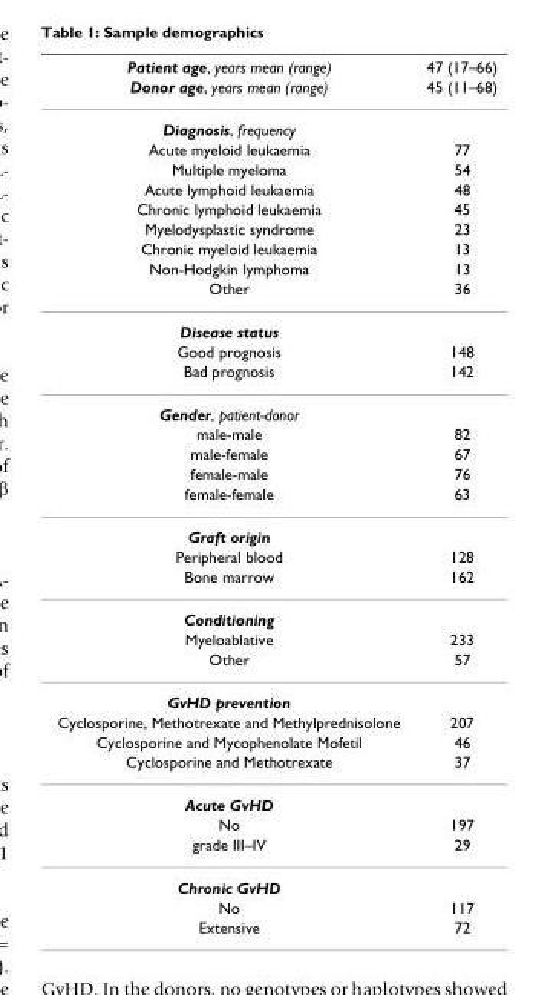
<table><thead><tr><td rowspan="2">Patient age, years mean (range) Donor age, years mean (range)</td><td rowspan="2">47 (17–66) 45 (11–68)</td></tr><tr></tr></thead><tbody><tr><td colspan="2">Diagnosis, frequency</td></tr><tr><td>Acute myeloid leukaemia</td><td>77</td></tr><tr><td>Multiple myeloma</td><td>54</td></tr><tr><td>Acute lymphoid leukaemia</td><td>48</td></tr><tr><td>Chronic lymphoid leukaemia</td><td>45</td></tr><tr><td>Myelodysplastic syndrome</td><td>23</td></tr><tr><td>Chronic myeloid leukaemia</td><td>13</td></tr><tr><td>Non-Hodgkin lymphoma</td><td>13</td></tr><tr><td>Other</td><td>36</td></tr><tr><td colspan="2">Disease status</td></tr><tr><td>Good prognosis</td><td>148</td></tr><tr><td>Bad prognosis</td><td>142</td></tr><tr><td colspan="2">Gender, patient-donor</td></tr><tr><td>male-male</td><td>82</td></tr><tr><td>male-female</td><td>67</td></tr><tr><td>female-male</td><td>76</td></tr><tr><td>female-female</td><td>63</td></tr><tr><td colspan="2">Graft origin</td></tr><tr><td>Peripheral blood</td><td>128</td></tr><tr><td>Bone marrow</td><td>162</td></tr><tr><td colspan="2">Conditioning</td></tr><tr><td>Myeloablative</td><td>233</td></tr><tr><td>Other</td><td>57</td></tr><tr><td colspan="2">GvHD prevention</td></tr><tr><td>Cyclosporine, Methotrexate and Methylprednisolone</td><td>207</td></tr><tr><td>Cyclosporine and Mycophenolate Mofetil</td><td>46</td></tr><tr><td>Cyclosporine and Methotrexate</td><td>37</td></tr><tr><td colspan="2">Acute GvHD</td></tr><tr><td>No</td><td>197</td></tr><tr><td>grade III–IV</td><td>29</td></tr><tr><td colspan="2">Chronic GvHD</td></tr><tr><td>No</td><td>117</td></tr><tr><td>Extensive</td><td>72</td></tr></tbody></table>